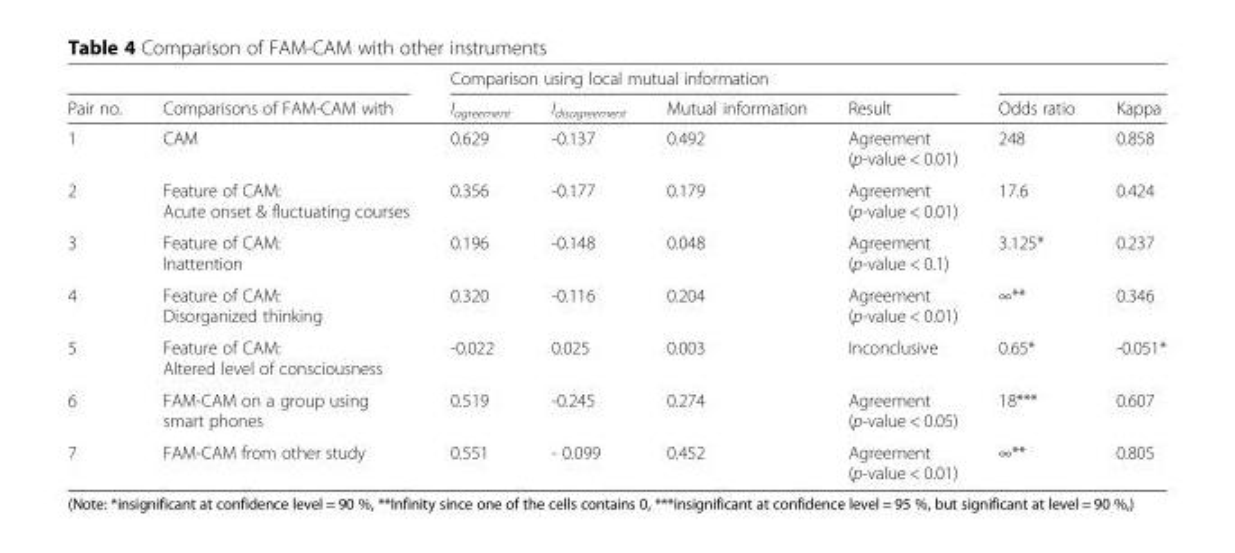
<table><thead><tr><td rowspan="2">Pair no.</td><td rowspan="2">Comparisons of FAM-CAM with</td><td colspan="4">Comparison using local mutual information</td><td rowspan="2">Odds ratio</td><td rowspan="2">Kappa</td></tr><tr><td>I<sub>agreement</sub></td><td>I<sub>disagreement</sub></td><td>Mutual information</td><td>Result</td></tr></thead><tbody><tr><td>1</td><td>CAM</td><td>0.629</td><td>-0.137</td><td>0.492</td><td>Agreement (p-value &lt; 0.01)</td><td>248</td><td>0.858</td></tr><tr><td>2</td><td>Feature of CAM: Acute onset &amp; fluctuating courses</td><td>0.356</td><td>-0.177</td><td>0.179</td><td>Agreement (p-value &lt; 0.01)</td><td>17.6</td><td>0.424</td></tr><tr><td>3</td><td>Feature of CAM: Inattention</td><td>0.196</td><td>-0.148</td><td>0.048</td><td>Agreement (p-value &lt; 0.1)</td><td>3.125*</td><td>0.237</td></tr><tr><td>4</td><td>Feature of CAM: Disorganized thinking</td><td>0.320</td><td>-0.116</td><td>0.204</td><td>Agreement (p-value &lt; 0.01)</td><td>∞**</td><td>0.346</td></tr><tr><td>5</td><td>Feature of CAM: Altered level of consciousness</td><td>-0.022</td><td>0.025</td><td>0.003</td><td>Inconclusive</td><td>0.65*</td><td>-0.051*</td></tr><tr><td>6</td><td>FAM-CAM on a group using smart phones</td><td>0.519</td><td>-0.245</td><td>0.274</td><td>Agreement (p-value &lt; 0.05)</td><td>18***</td><td>0.607</td></tr><tr><td>7</td><td>FAM-CAM from other study</td><td>0.551</td><td>- 0.099</td><td>0.452</td><td>Agreement (p-value &lt; 0.01)</td><td>∞**</td><td>0.805</td></tr></tbody></table>